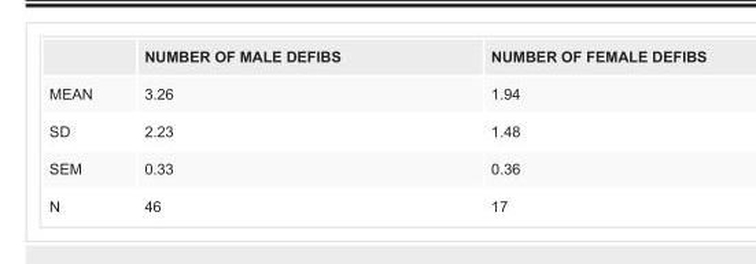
<table><thead><tr><td></td><td>NUMBER OF MALE DEFIBS</td><td>NUMBER OF FEMALE DEFIBS</td></tr></thead><tbody><tr><td>MEAN</td><td>3.26</td><td>1.94</td></tr><tr><td>SD</td><td>2.23</td><td>1.48</td></tr><tr><td>SEM</td><td>0.33</td><td>0.36</td></tr><tr><td>N</td><td>46</td><td>17</td></tr></tbody></table>